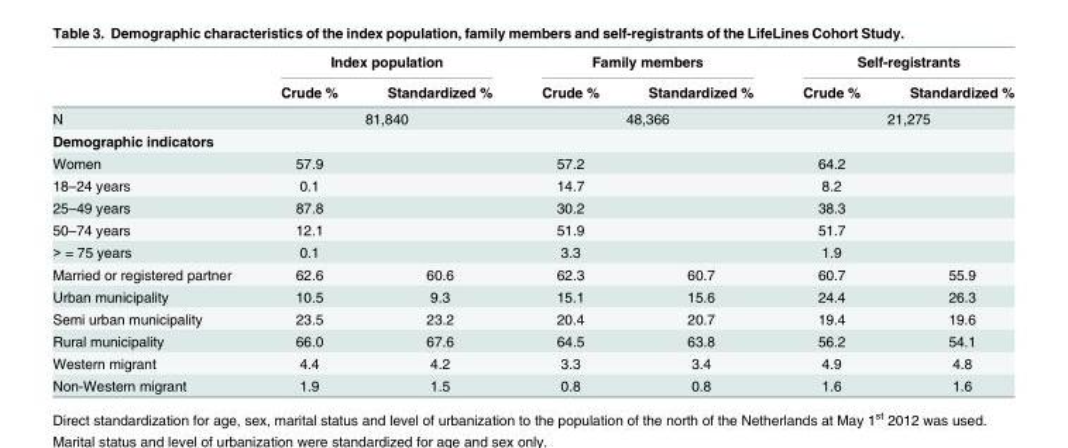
<table><thead><tr><td rowspan="2"></td><td colspan="2">Index population</td><td colspan="2">Family members</td><td colspan="2">Self-registrants</td></tr><tr><td>Crude %</td><td>Standardized %</td><td>Crude %</td><td>Standardized %</td><td>Crude %</td><td>Standardized %</td></tr></thead><tbody><tr><td>N</td><td colspan="2">81,840</td><td colspan="2">48,366</td><td colspan="2">21,275</td></tr><tr><td colspan="7">Demographic indicators</td></tr><tr><td>Women</td><td>57.9</td><td></td><td>57.2</td><td></td><td>64.2</td><td></td></tr><tr><td>18–24 years</td><td>0.1</td><td></td><td>14.7</td><td></td><td>8.2</td><td></td></tr><tr><td>25–49 years</td><td>87.8</td><td></td><td>30.2</td><td></td><td>38.3</td><td></td></tr><tr><td>50–74 years</td><td>12.1</td><td></td><td>51.9</td><td></td><td>51.7</td><td></td></tr><tr><td>&gt; = 75 years</td><td>0.1</td><td></td><td>3.3</td><td></td><td>1.9</td><td></td></tr><tr><td>Married or registered partner</td><td>62.6</td><td>60.6</td><td>62.3</td><td>60.7</td><td>60.7</td><td>55.9</td></tr><tr><td>Urban municipality</td><td>10.5</td><td>9.3</td><td>15.1</td><td>15.6</td><td>24.4</td><td>26.3</td></tr><tr><td>Semi urban municipality</td><td>23.5</td><td>23.2</td><td>20.4</td><td>20.7</td><td>19.4</td><td>19.6</td></tr><tr><td>Rural municipality</td><td>66.0</td><td>67.6</td><td>64.5</td><td>63.8</td><td>56.2</td><td>54.1</td></tr><tr><td>Western migrant</td><td>4.4</td><td>4.2</td><td>3.3</td><td>3.4</td><td>4.9</td><td>4.8</td></tr><tr><td>Non-Western migrant</td><td>1.9</td><td>1.5</td><td>0.8</td><td>0.8</td><td>1.6</td><td>1.6</td></tr></tbody></table>